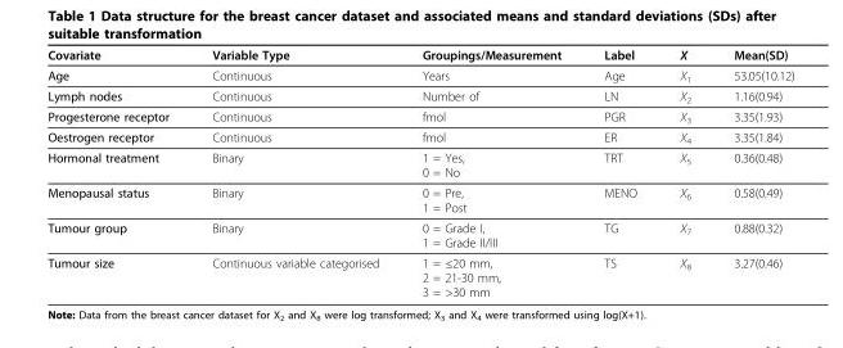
<table><thead><tr><td>Covariate</td><td>Variable Type</td><td>Groupings/Measurement</td><td>Label</td><td>X</td><td>Mean(SD)</td></tr></thead><tbody><tr><td>Age</td><td>Continuous</td><td>Years</td><td>Age</td><td>X<sub>1</sub></td><td>53.05(10.12)</td></tr><tr><td>Lymph nodes</td><td>Continuous</td><td>Number of</td><td>LN</td><td>X<sub>2</sub></td><td>1.16(0.94)</td></tr><tr><td>Progesterone receptor</td><td>Continuous</td><td>fmol</td><td>PGR</td><td>X<sub>3</sub></td><td>3.35(1.93)</td></tr><tr><td>Oestrogen receptor</td><td>Continuous</td><td>fmol</td><td>ER</td><td>X<sub>4</sub></td><td>3.35(1.84)</td></tr><tr><td>Hormonal treatment</td><td>Binary</td><td>1 = Yes, 0 = No</td><td>TRT</td><td>X<sub>5</sub></td><td>0.36(0.48)</td></tr><tr><td>Menopausal status</td><td>Binary</td><td>0 = Pre, 1 = Post</td><td>MENO</td><td>X<sub>6</sub></td><td>0.58(0.49)</td></tr><tr><td>Tumour group</td><td>Binary</td><td>0 = Grade I, 1 = Grade II/III</td><td>TG</td><td>X<sub>7</sub></td><td>0.88(0.32)</td></tr><tr><td>Tumour size</td><td>Continuous variable categorised</td><td>1 = ≤20 mm, 2 = 21-30 mm, 3 = &gt;30 mm</td><td>TS</td><td>X<sub>8</sub></td><td>3.27(0.46)</td></tr></tbody></table>